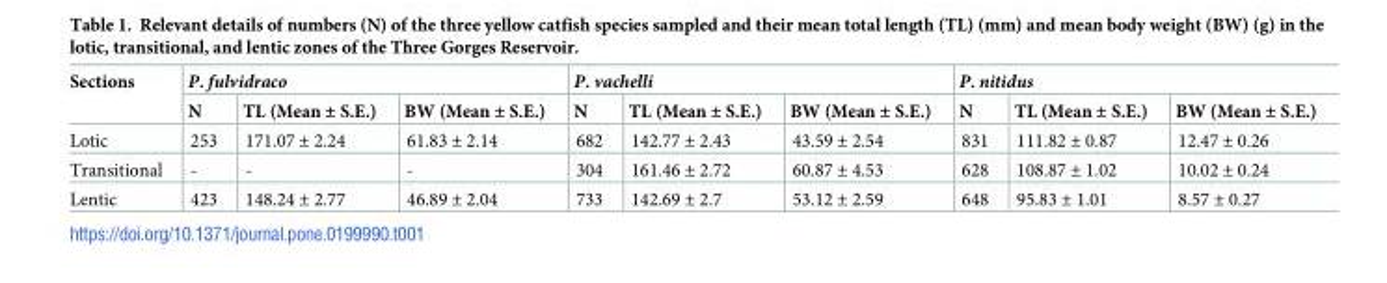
<table><thead><tr><td rowspan="2">Sections</td><td colspan="3">P. fulvidraco</td><td colspan="3">P. vachelli</td><td colspan="3">P. nitidus</td></tr><tr><td>N</td><td>TL (Mean ± S.E.)</td><td>BW (Mean ± S.E.)</td><td>N</td><td>TL (Mean ± S.E.)</td><td>BW (Mean ± S.E.)</td><td>N</td><td>TL (Mean ± S.E.)</td><td>BW (Mean ± S.E.)</td></tr></thead><tbody><tr><td>Lotic</td><td>253</td><td>171.07 ± 2.24</td><td>61.83 ± 2.14</td><td>682</td><td>142.77 ± 2.43</td><td>43.59 ± 2.54</td><td>831</td><td>111.82 ± 0.87</td><td>12.47 ± 0.26</td></tr><tr><td>Transitional</td><td>-</td><td>-</td><td>-</td><td>304</td><td>161.46 ± 2.72</td><td>60.87 ± 4.53</td><td>628</td><td>108.87 ± 1.02</td><td>10.02 ± 0.24</td></tr><tr><td>Lentic</td><td>423</td><td>148.24 ± 2.77</td><td>46.89 ± 2.04</td><td>733</td><td>142.69 ± 2.7</td><td>53.12 ± 2.59</td><td>648</td><td>95.83 ± 1.01</td><td>8.57 ± 0.27</td></tr></tbody></table>